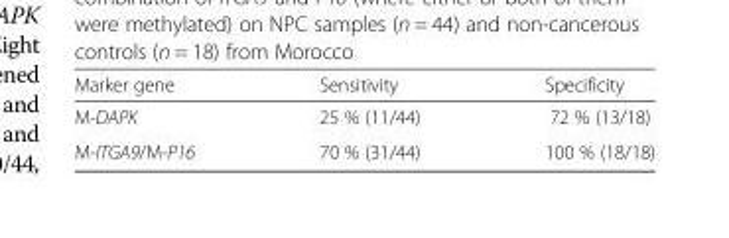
<table><thead><tr><td>Marker gene</td><td>Sensitivity</td><td>Specificity</td></tr></thead><tbody><tr><td>M-DAPK</td><td>25 % (11/44)</td><td>72 % (13/18)</td></tr><tr><td>M-ITGA9/M-P16</td><td>70 % (31/44)</td><td>100 % (18/18)</td></tr></tbody></table>